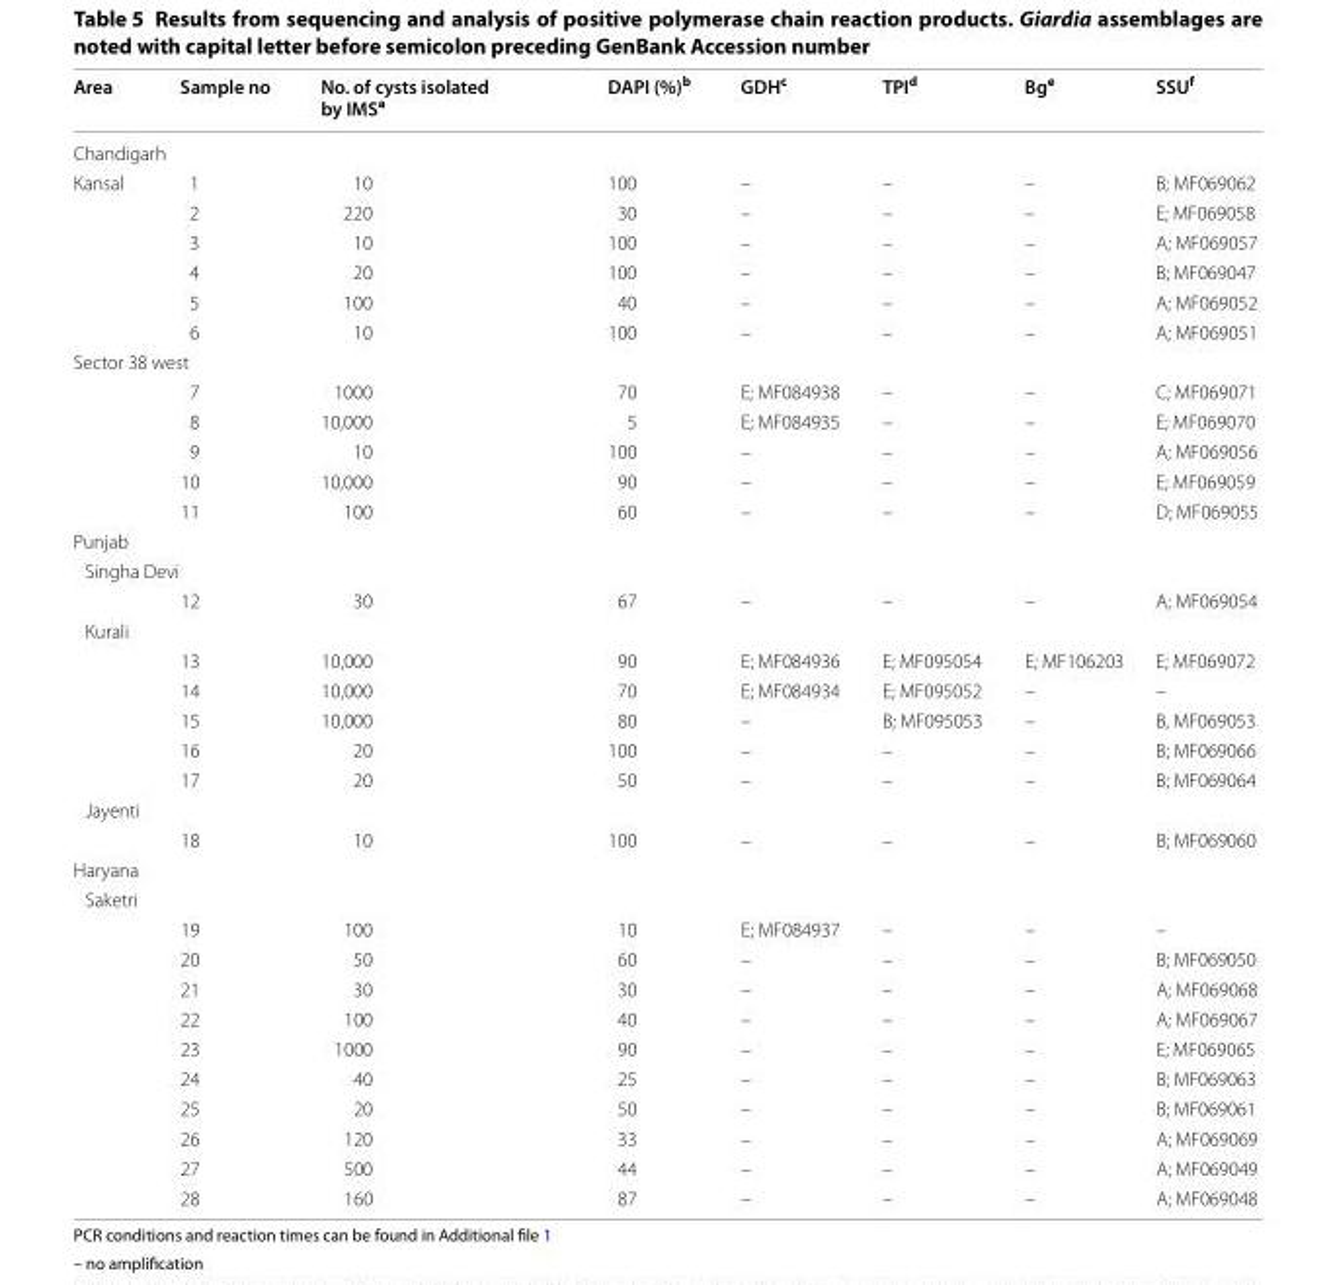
<table><thead><tr><td>Area</td><td>Sample no</td><td>No. of cysts isolated by IMS<sup>a</sup></td><td>DAPI (%)<sup>b</sup></td><td>GDH<sup>c</sup></td><td>TPI<sup>d</sup></td><td>Bg<sup>e</sup></td><td>SSU<sup>f</sup></td></tr></thead><tbody><tr><td colspan="8">Chandigarh</td></tr><tr><td rowspan="6">Kansal</td><td>1</td><td>10</td><td>100</td><td>–</td><td>–</td><td>–</td><td>B; MF069062</td></tr><tr><td>2</td><td>220</td><td>30</td><td>–</td><td>–</td><td>–</td><td>E; MF069058</td></tr><tr><td>3</td><td>10</td><td>100</td><td>–</td><td>–</td><td>–</td><td>A; MF069057</td></tr><tr><td>4</td><td>20</td><td>100</td><td>–</td><td>–</td><td>–</td><td>B; MF069047</td></tr><tr><td>5</td><td>100</td><td>40</td><td>–</td><td>–</td><td>–</td><td>A; MF069052</td></tr><tr><td>6</td><td>10</td><td>100</td><td>–</td><td>–</td><td>–</td><td>A; MF069051</td></tr><tr><td colspan="8">Sector 38 west</td></tr><tr><td rowspan="5"></td><td>7</td><td>1000</td><td>70</td><td>E; MF084938</td><td>–</td><td>–</td><td>C; MF069071</td></tr><tr><td>8</td><td>10,000</td><td>5</td><td>E; MF084935</td><td>–</td><td>–</td><td>E; MF069070</td></tr><tr><td>9</td><td>10</td><td>100</td><td>–</td><td>–</td><td>–</td><td>A; MF069056</td></tr><tr><td>10</td><td>10,000</td><td>90</td><td>–</td><td>–</td><td>–</td><td>E; MF069059</td></tr><tr><td>11</td><td>100</td><td>60</td><td>–</td><td>–</td><td>–</td><td>D; MF069055</td></tr><tr><td colspan="8">Punjab</td></tr><tr><td colspan="8">Singha Devi</td></tr><tr><td></td><td>12</td><td>30</td><td>67</td><td>–</td><td>–</td><td>–</td><td>A; MF069054</td></tr><tr><td colspan="8">Kurali</td></tr><tr><td rowspan="5"></td><td>13</td><td>10,000</td><td>90</td><td>E; MF084936</td><td>E; MF095054</td><td>E; MF106203</td><td>E; MF069072</td></tr><tr><td>14</td><td>10,000</td><td>70</td><td>E; MF084934</td><td>E; MF095052</td><td>–</td><td>–</td></tr><tr><td>15</td><td>10,000</td><td>80</td><td>–</td><td>B; MF095053</td><td>–</td><td>B, MF069053</td></tr><tr><td>16</td><td>20</td><td>100</td><td>–</td><td>–</td><td>–</td><td>B; MF069066</td></tr><tr><td>17</td><td>20</td><td>50</td><td>–</td><td>–</td><td>–</td><td>B; MF069064</td></tr><tr><td colspan="8">Jayenti</td></tr><tr><td></td><td>18</td><td>10</td><td>100</td><td>–</td><td>–</td><td>–</td><td>B; MF069060</td></tr><tr><td colspan="8">Haryana</td></tr><tr><td colspan="8">Saketri</td></tr><tr><td rowspan="10"></td><td>19</td><td>100</td><td>10</td><td>E; MF084937</td><td>–</td><td>–</td><td>–</td></tr><tr><td>20</td><td>50</td><td>60</td><td>–</td><td>–</td><td>–</td><td>B; MF069050</td></tr><tr><td>21</td><td>30</td><td>30</td><td>–</td><td>–</td><td>–</td><td>A; MF069068</td></tr><tr><td>22</td><td>100</td><td>40</td><td>–</td><td>–</td><td>–</td><td>A; MF069067</td></tr><tr><td>23</td><td>1000</td><td>90</td><td>–</td><td>–</td><td>–</td><td>E; MF069065</td></tr><tr><td>24</td><td>40</td><td>25</td><td>–</td><td>–</td><td>–</td><td>B; MF069063</td></tr><tr><td>25</td><td>20</td><td>50</td><td>–</td><td>–</td><td>–</td><td>B; MF069061</td></tr><tr><td>26</td><td>120</td><td>33</td><td>–</td><td>–</td><td>–</td><td>A; MF069069</td></tr><tr><td>27</td><td>500</td><td>44</td><td>–</td><td>–</td><td>–</td><td>A; MF069049</td></tr><tr><td>28</td><td>160</td><td>87</td><td>–</td><td>–</td><td>–</td><td>A; MF069048</td></tr></tbody></table>